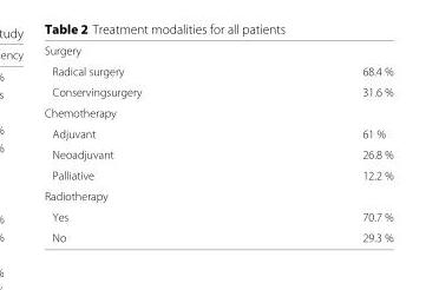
<table><tbody><tr><td colspan="2">Surgery</td></tr><tr><td>Radical surgery</td><td>68.4 %</td></tr><tr><td>Conservingsurgery</td><td>31.6 %</td></tr><tr><td colspan="2">Chemotherapy</td></tr><tr><td>Adjuvant</td><td>61 %</td></tr><tr><td>Neoadjuvant</td><td>26.8 %</td></tr><tr><td>Palliative</td><td>12.2 %</td></tr><tr><td colspan="2">Radiotherapy</td></tr><tr><td>Yes</td><td>70.7 %</td></tr><tr><td>No</td><td>29.3 %</td></tr></tbody></table>